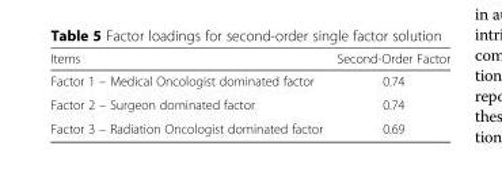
<table><thead><tr><td>Items</td><td>Second-Order Factor</td></tr></thead><tbody><tr><td>Factor 1 – Medical Oncologist dominated factor</td><td>0.74</td></tr><tr><td>Factor 2 – Surgeon dominated factor</td><td>0.74</td></tr><tr><td>Factor 3 – Radiation Oncologist dominated factor</td><td>0.69</td></tr></tbody></table>